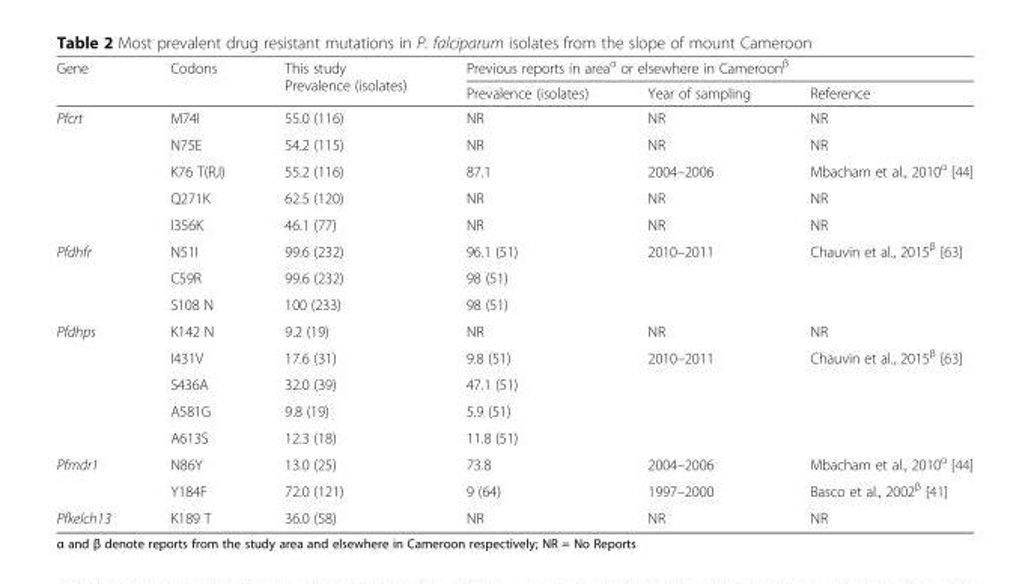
<table><thead><tr><td rowspan="2">Gene</td><td rowspan="2">Codons</td><td rowspan="2">This study Prevalence (isolates)</td><td colspan="3">Previous reports in area<sup>α</sup> or elsewhere in Cameroon<sup>β</sup></td></tr><tr><td>Prevalence (isolates)</td><td>Year of sampling</td><td>Reference</td></tr></thead><tbody><tr><td rowspan="5">Pfcrt</td><td>M74I</td><td>55.0 (116)</td><td>NR</td><td>NR</td><td>NR</td></tr><tr><td>N75E</td><td>54.2 (115)</td><td>NR</td><td>NR</td><td>NR</td></tr><tr><td>K76 T(R,I)</td><td>55.2 (116)</td><td>87.1</td><td>2004–2006</td><td>Mbacham et al., 2010<sup>α</sup> [44]</td></tr><tr><td>Q271K</td><td>62.5 (120)</td><td>NR</td><td>NR</td><td>NR</td></tr><tr><td>I356K</td><td>46.1 (77)</td><td>NR</td><td>NR</td><td>NR</td></tr><tr><td rowspan="3">Pfdhfr</td><td>N51I</td><td>99.6 (232)</td><td>96.1 (51)</td><td rowspan="3">2010–2011</td><td rowspan="3">Chauvin et al., 2015<sup>β</sup> [63]</td></tr><tr><td>C59R</td><td>99.6 (232)</td><td>98 (51)</td></tr><tr><td>S108 N</td><td>100 (233)</td><td>98 (51)</td></tr><tr><td rowspan="5">Pfdhps</td><td>K142 N</td><td>9.2 (19)</td><td>NR</td><td>NR</td><td>NR</td></tr><tr><td>I431V</td><td>17.6 (31)</td><td>9.8 (51)</td><td rowspan="4">2010–2011</td><td rowspan="4">Chauvin et al., 2015<sup>β</sup> [63]</td></tr><tr><td>S436A</td><td>32.0 (39)</td><td>47.1 (51)</td></tr><tr><td>A581G</td><td>9.8 (19)</td><td>5.9 (51)</td></tr><tr><td>A613S</td><td>12.3 (18)</td><td>11.8 (51)</td></tr><tr><td rowspan="2">Pfmdr1</td><td>N86Y</td><td>13.0 (25)</td><td>73.8</td><td>2004–2006</td><td>Mbacham et al., 2010<sup>α</sup> [44]</td></tr><tr><td>Y184F</td><td>72.0 (121)</td><td>9 (64)</td><td>1997–2000</td><td>Basco et al., 2002<sup>β</sup> [41]</td></tr><tr><td>Pfkelch13</td><td>K189 T</td><td>36.0 (58)</td><td>NR</td><td>NR</td><td>NR</td></tr></tbody></table>